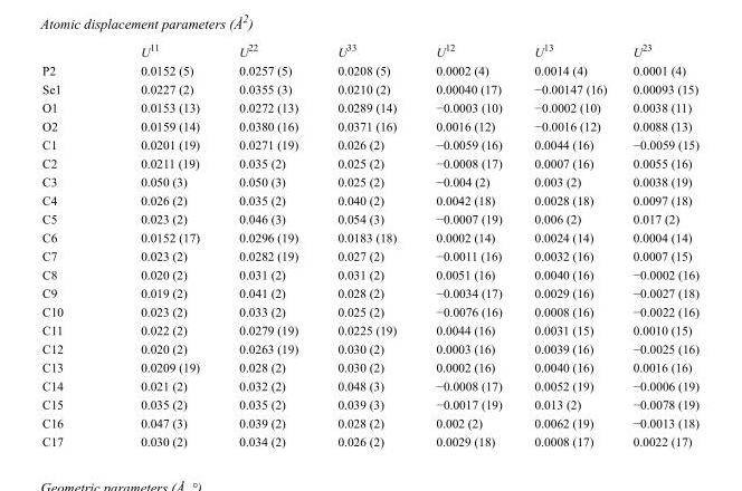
<table><thead><tr><td></td><td>U<sup>11</sup></td><td>U<sup>22</sup></td><td>U<sup>33</sup></td><td>U<sup>12</sup></td><td>U<sup>13</sup></td><td>U<sup>23</sup></td></tr></thead><tbody><tr><td>P2</td><td>0.0152 (5)</td><td>0.0257 (5)</td><td>0.0208 (5)</td><td>0.0002 (4)</td><td>0.0014 (4)</td><td>0.0001 (4)</td></tr><tr><td>Se1</td><td>0.0227 (2)</td><td>0.0355 (3)</td><td>0.0210 (2)</td><td>0.00040 (17)</td><td>−0.00147 (16)</td><td>0.00093 (15)</td></tr><tr><td>O1</td><td>0.0153 (13)</td><td>0.0272 (13)</td><td>0.0289 (14)</td><td>−0.0003 (10)</td><td>−0.0002 (10)</td><td>0.0038 (11)</td></tr><tr><td>O2</td><td>0.0159 (14)</td><td>0.0380 (16)</td><td>0.0371 (16)</td><td>0.0016 (12)</td><td>−0.0016 (12)</td><td>0.0088 (13)</td></tr><tr><td>C1</td><td>0.0201 (19)</td><td>0.0271 (19)</td><td>0.026 (2)</td><td>−0.0059 (16)</td><td>0.0044 (16)</td><td>−0.0059 (15)</td></tr><tr><td>C2</td><td>0.0211 (19)</td><td>0.035 (2)</td><td>0.025 (2)</td><td>−0.0008 (17)</td><td>0.0007 (16)</td><td>0.0055 (16)</td></tr><tr><td>C3</td><td>0.050 (3)</td><td>0.050 (3)</td><td>0.025 (2)</td><td>−0.004 (2)</td><td>0.003 (2)</td><td>0.0038 (19)</td></tr><tr><td>C4</td><td>0.026 (2)</td><td>0.035 (2)</td><td>0.040 (2)</td><td>0.0042 (18)</td><td>0.0028 (18)</td><td>0.0097 (18)</td></tr><tr><td>C5</td><td>0.023 (2)</td><td>0.046 (3)</td><td>0.054 (3)</td><td>−0.0007 (19)</td><td>0.006 (2)</td><td>0.017 (2)</td></tr><tr><td>C6</td><td>0.0152 (17)</td><td>0.0296 (19)</td><td>0.0183 (18)</td><td>0.0002 (14)</td><td>0.0024 (14)</td><td>0.0004 (14)</td></tr><tr><td>C7</td><td>0.023 (2)</td><td>0.0282 (19)</td><td>0.027 (2)</td><td>−0.0011 (16)</td><td>0.0032 (16)</td><td>0.0007 (15)</td></tr><tr><td>C8</td><td>0.020 (2)</td><td>0.031 (2)</td><td>0.031 (2)</td><td>0.0051 (16)</td><td>0.0040 (16)</td><td>−0.0002 (16)</td></tr><tr><td>C9</td><td>0.019 (2)</td><td>0.041 (2)</td><td>0.028 (2)</td><td>−0.0034 (17)</td><td>0.0029 (16)</td><td>−0.0027 (18)</td></tr><tr><td>C10</td><td>0.023 (2)</td><td>0.033 (2)</td><td>0.025 (2)</td><td>−0.0076 (16)</td><td>0.0008 (16)</td><td>−0.0022 (16)</td></tr><tr><td>C11</td><td>0.022 (2)</td><td>0.0279 (19)</td><td>0.0225 (19)</td><td>0.0044 (16)</td><td>0.0031 (15)</td><td>0.0010 (15)</td></tr><tr><td>C12</td><td>0.020 (2)</td><td>0.0263 (19)</td><td>0.030 (2)</td><td>0.0003 (16)</td><td>0.0039 (16)</td><td>−0.0025 (16)</td></tr><tr><td>C13</td><td>0.0209 (19)</td><td>0.028 (2)</td><td>0.030 (2)</td><td>0.0002 (16)</td><td>0.0040 (16)</td><td>0.0016 (16)</td></tr><tr><td>C14</td><td>0.021 (2)</td><td>0.032 (2)</td><td>0.048 (3)</td><td>−0.0008 (17)</td><td>0.0052 (19)</td><td>−0.0006 (19)</td></tr><tr><td>C15</td><td>0.035 (2)</td><td>0.035 (2)</td><td>0.039 (3)</td><td>−0.0017 (19)</td><td>0.013 (2)</td><td>−0.0078 (19)</td></tr><tr><td>C16</td><td>0.047 (3)</td><td>0.039 (2)</td><td>0.028 (2)</td><td>0.002 (2)</td><td>0.0062 (19)</td><td>−0.0013 (18)</td></tr><tr><td>C17</td><td>0.030 (2)</td><td>0.034 (2)</td><td>0.026 (2)</td><td>0.0029 (18)</td><td>0.0008 (17)</td><td>0.0022 (17)</td></tr></tbody></table>